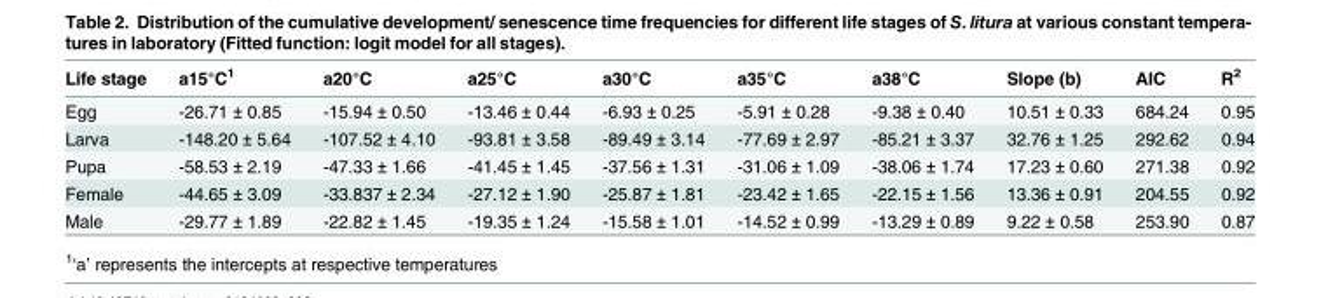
<table><thead><tr><td>Life stage</td><td>a15°C<sup>1</sup></td><td>a20°C</td><td>a25°C</td><td>a30°C</td><td>a35°C</td><td>a38°C</td><td>Slope (b)</td><td>AIC</td><td>R<sup>2</sup></td></tr></thead><tbody><tr><td>Egg</td><td>-26.71 ± 0.85</td><td>-15.94 ± 0.50</td><td>-13.46 ± 0.44</td><td>-6.93 ± 0.25</td><td>-5.91 ± 0.28</td><td>-9.38 ± 0.40</td><td>10.51 ± 0.33</td><td>684.24</td><td>0.95</td></tr><tr><td>Larva</td><td>-148.20 ± 5.64</td><td>-107.52 ± 4.10</td><td>-93.81 ± 3.58</td><td>-89.49 ± 3.14</td><td>-77.69 ± 2.97</td><td>-85.21 ± 3.37</td><td>32.76 ± 1.25</td><td>292.62</td><td>0.94</td></tr><tr><td>Pupa</td><td>-58.53 ± 2.19</td><td>-47.33 ± 1.66</td><td>-41.45 ± 1.45</td><td>-37.56 ± 1.31</td><td>-31.06 ± 1.09</td><td>-38.06 ± 1.74</td><td>17.23 ± 0.60</td><td>271.38</td><td>0.92</td></tr><tr><td>Female</td><td>-44.65 ± 3.09</td><td>-33.837 ± 2.34</td><td>-27.12 ± 1.90</td><td>-25.87 ± 1.81</td><td>-23.42 ± 1.65</td><td>-22.15 ± 1.56</td><td>13.36 ± 0.91</td><td>204.55</td><td>0.92</td></tr><tr><td>Male</td><td>-29.77 ± 1.89</td><td>-22.82 ± 1.45</td><td>-19.35 ± 1.24</td><td>-15.58 ± 1.01</td><td>-14.52 ± 0.99</td><td>-13.29 ± 0.89</td><td>9.22 ± 0.58</td><td>253.90</td><td>0.87</td></tr></tbody></table>